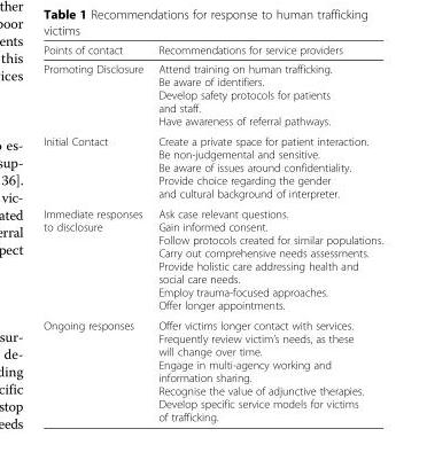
<table><thead><tr><td>Points of contact</td><td>Recommendations for service providers</td></tr></thead><tbody><tr><td>Promoting Disclosure</td><td>Attend training on human trafficking. Be aware of identifiers. Develop safety protocols for patients and staff. Have awareness of referral pathways.</td></tr><tr><td>Initial Contact</td><td>Create a private space for patient interaction. Be non-judgemental and sensitive. Be aware of issues around confidentiality. Provide choice regarding the gender and cultural background of interpreter.</td></tr><tr><td>Immediate responses to disclosure</td><td>Ask case relevant questions. Gain informed consent. Follow protocols created for similar populations. Carry out comprehensive needs assessments. Provide holistic care addressing health and social care needs. Employ trauma-focused approaches. Offer longer appointments.</td></tr><tr><td>Ongoing responses</td><td>Offer victims longer contact with services. Frequently review victim’s needs, as these will change over time. Engage in multi-agency working and information sharing. Recognise the value of adjunctive therapies. Develop specific service models for victims of trafficking.</td></tr></tbody></table>